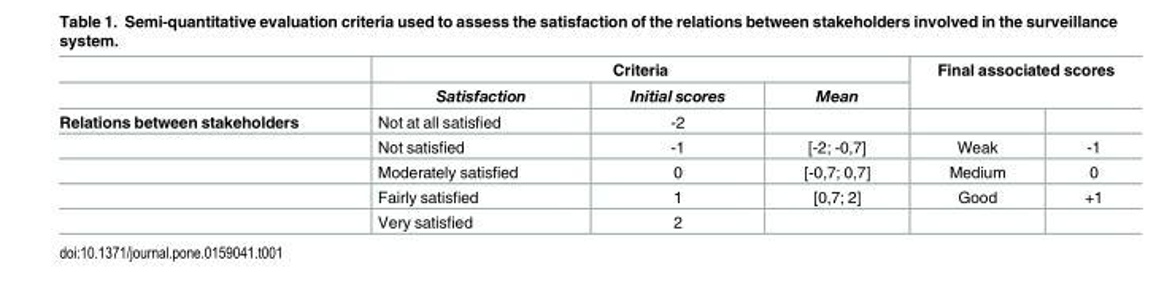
<table><thead><tr><td rowspan="3">Relations between stakeholders</td><td colspan="3">Criteria</td><td rowspan="2" colspan="2">Final associated scores</td></tr><tr><td rowspan="2">Satisfaction Not at all satisfied</td><td rowspan="2">Initial scores -2</td><td rowspan="2">Mean</td></tr><tr><td></td><td></td></tr></thead><tbody><tr><td></td><td>Not satisfied</td><td>-1</td><td>[-2; -0,7]</td><td>Weak</td><td>-1</td></tr><tr><td></td><td>Moderately satisfied</td><td>0</td><td>[-0,7; 0,7]</td><td>Medium</td><td>0</td></tr><tr><td></td><td>Fairly satisfied</td><td>1</td><td>[0,7; 2]</td><td>Good</td><td>+1</td></tr><tr><td></td><td>Very satisfied</td><td>2</td><td></td><td></td><td></td></tr></tbody></table>